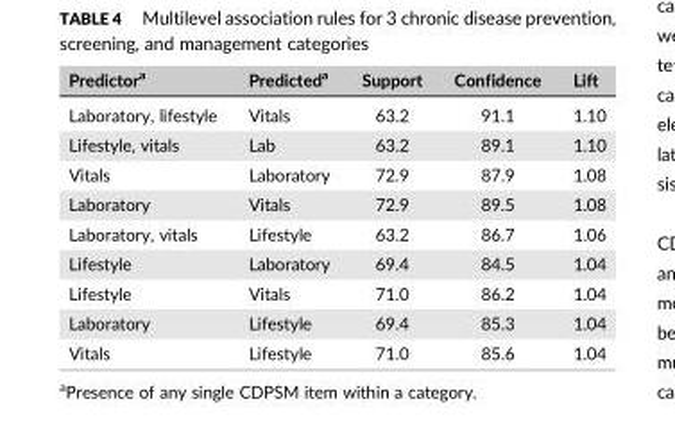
<table><thead><tr><td>Predictor<sup>a</sup></td><td>Predicted<sup>a</sup></td><td>Support</td><td>Confidence</td><td>Lift</td></tr></thead><tbody><tr><td>Laboratory, lifestyle</td><td>Vitals</td><td>63.2</td><td>91.1</td><td>1.10</td></tr><tr><td>Lifestyle, vitals</td><td>Lab</td><td>63.2</td><td>89.1</td><td>1.10</td></tr><tr><td>Vitals</td><td>Laboratory</td><td>72.9</td><td>87.9</td><td>1.08</td></tr><tr><td>Laboratory</td><td>Vitals</td><td>72.9</td><td>89.5</td><td>1.08</td></tr><tr><td>Laboratory, vitals</td><td>Lifestyle</td><td>63.2</td><td>86.7</td><td>1.06</td></tr><tr><td>Lifestyle</td><td>Laboratory</td><td>69.4</td><td>84.5</td><td>1.04</td></tr><tr><td>Lifestyle</td><td>Vitals</td><td>71.0</td><td>86.2</td><td>1.04</td></tr><tr><td>Laboratory</td><td>Lifestyle</td><td>69.4</td><td>85.3</td><td>1.04</td></tr><tr><td>Vitals</td><td>Lifestyle</td><td>71.0</td><td>85.6</td><td>1.04</td></tr></tbody></table>